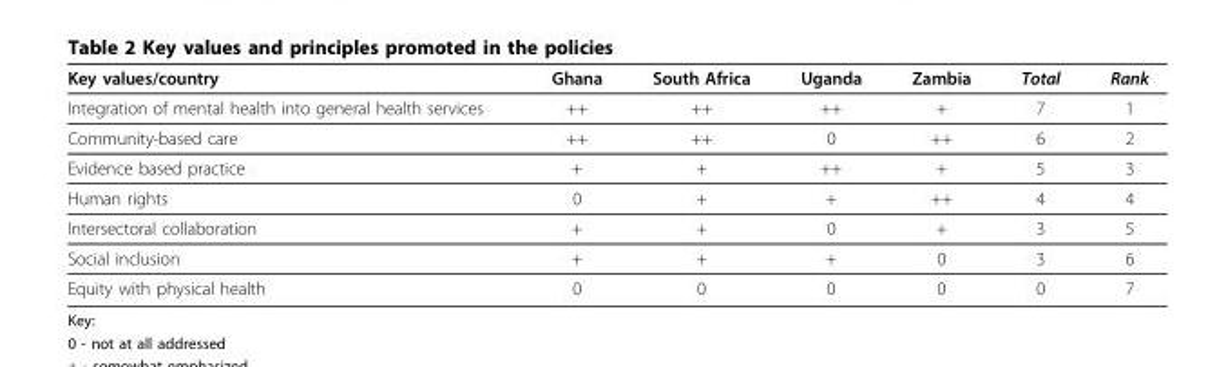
<table><thead><tr><td>Key values/country</td><td>Ghana</td><td>South Africa</td><td>Uganda</td><td>Zambia</td><td>Total</td><td>Rank</td></tr></thead><tbody><tr><td>Integration of mental health into general health services</td><td>++</td><td>++</td><td>++</td><td>+</td><td>7</td><td>1</td></tr><tr><td>Community-based care</td><td>++</td><td>++</td><td>0</td><td>++</td><td>6</td><td>2</td></tr><tr><td>Evidence based practice</td><td>+</td><td>+</td><td>++</td><td>+</td><td>5</td><td>3</td></tr><tr><td>Human rights</td><td>0</td><td>+</td><td>+</td><td>++</td><td>4</td><td>4</td></tr><tr><td>Intersectoral collaboration</td><td>+</td><td>+</td><td>0</td><td>+</td><td>3</td><td>5</td></tr><tr><td>Social inclusion</td><td>+</td><td>+</td><td>+</td><td>0</td><td>3</td><td>6</td></tr><tr><td>Equity with physical health</td><td>0</td><td>0</td><td>0</td><td>0</td><td>0</td><td>7</td></tr></tbody></table>